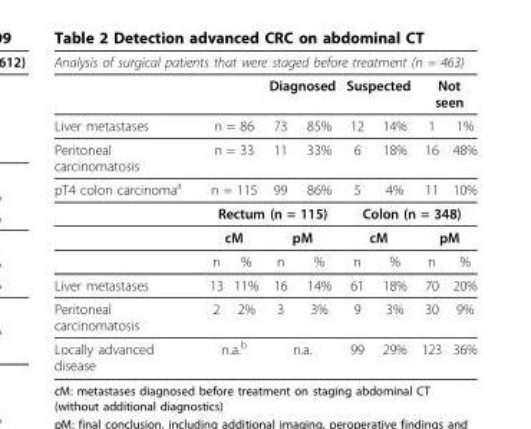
<table><thead><tr><td colspan="9">Analysis of surgical patients that were staged before treatment (n = 463)</td></tr><tr><td rowspan="2">Liver metastases</td><td></td><td></td><td colspan="2">Diagnosed</td><td colspan="2">Suspected</td><td colspan="2">Not seen</td></tr><tr><td colspan="2">n = 86</td><td>73</td><td>85%</td><td>12</td><td>14%</td><td>1</td><td>1%</td></tr></thead><tbody><tr><td>Peritoneal carcinomatosis</td><td colspan="2">n = 33</td><td>11</td><td>33%</td><td>6</td><td>18%</td><td>16</td><td>48%</td></tr><tr><td rowspan="4">pT4 colon carcinoma<sup>a</sup></td><td colspan="2">n = 115</td><td>99</td><td>86%</td><td>5</td><td>4%</td><td>11</td><td>10%</td></tr><tr><td colspan="4">Rectum (n = 115)</td><td colspan="4">Colon (n = 348)</td></tr><tr><td colspan="2">cM</td><td colspan="2">pM</td><td colspan="2">cM</td><td colspan="2">pM</td></tr><tr><td>n</td><td>%</td><td>n</td><td>%</td><td>n</td><td>%</td><td>n</td><td>%</td></tr><tr><td>Liver metastases</td><td>13</td><td>11%</td><td>16</td><td>14%</td><td>61</td><td>18%</td><td>70</td><td>20%</td></tr><tr><td>Peritoneal carcinomatosis</td><td>2</td><td>2%</td><td>3</td><td>3%</td><td>9</td><td>3%</td><td>30</td><td>9%</td></tr><tr><td>Locally advanced disease</td><td colspan="2">n.a.<sup>b</sup></td><td colspan="2">n.a.</td><td>99</td><td>29%</td><td>123</td><td>36%</td></tr></tbody></table>